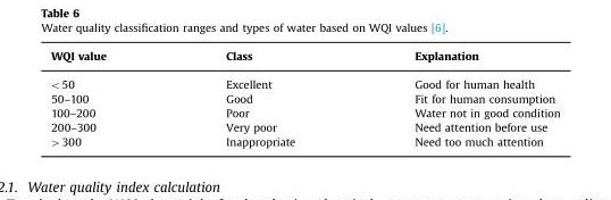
<table><thead><tr><td>WQI value</td><td>Class</td><td>Explanation</td></tr></thead><tbody><tr><td>&lt;50</td><td>Excellent</td><td>Good for human health</td></tr><tr><td>50–100</td><td>Good</td><td>Fit for human consumption</td></tr><tr><td>100–200</td><td>Poor</td><td>Water not in good condition</td></tr><tr><td>200–300</td><td>Very poor</td><td>Need attention before use</td></tr><tr><td>&gt;300</td><td>Inappropriate</td><td>Need too much attention</td></tr></tbody></table>